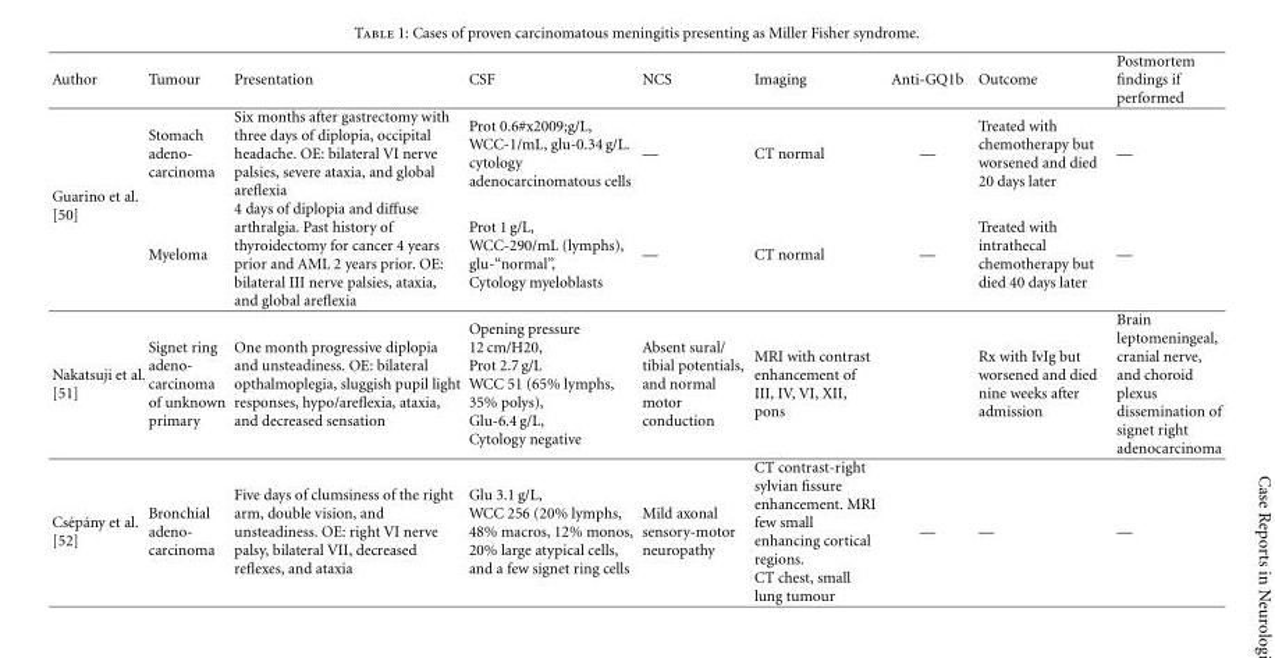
<table><thead><tr><td>Author</td><td>Tumour</td><td>Presentation</td><td>CSF</td><td>NCS</td><td>Imaging</td><td>Anti-GQ1b</td><td>Outcome</td><td>Postmortem findings if performed</td></tr></thead><tbody><tr><td rowspan="2">Guarino et al. [50]</td><td>Stomach adeno- carcinoma</td><td>Six months after gastrectomy with three days of diplopia, occipital headache. OE: bilateral VI nerve palsies, severe ataxia, and global areflexia</td><td>Prot 0.6#x2009;g/L, WCC-1/mL, glu-0.34 g/L. cytology adenocarcinomatous cells</td><td>—</td><td>CT normal</td><td>—</td><td>Treated with chemotherapy but worsened and died 20 days later</td><td>—</td></tr><tr><td>Myeloma</td><td>4 days of diplopia and diffuse arthralgia. Past history of thyroidectomy for cancer 4 years prior and AML 2 years prior. OE: bilateral III nerve palsies, ataxia, and global areflexia</td><td>Prot 1 g/L, WCC-290/mL (lymphs), glu-“normal”, Cytology myeloblasts</td><td>—</td><td>CT normal</td><td>—</td><td>Treated with intrathecal chemotherapy but died 40 days later</td><td>—</td></tr><tr><td>Nakatsuji et al. [51]</td><td>Signet ring adeno- carcinoma of unknown primary</td><td>One month progressive diplopia and unsteadiness. OE: bilateral opthalmoplegia, sluggish pupil light responses, hypo/areflexia, ataxia, and decreased sensation</td><td>Opening pressure 12 cm/H20, Prot 2.7 g/L WCC 51 (65% lymphs, 35% polys), Glu-6.4 g/L, Cytology negative</td><td>Absent sural/ tibial potentials, and normal motor conduction</td><td>MRI with contrast enhancement of III, IV, VI, XII, pons</td><td></td><td>Rx with IvIg but worsened and died nine weeks after admission</td><td>Brain leptomeningeal, cranial nerve, and choroid plexus dissemination of signet right adenocarcinoma</td></tr><tr><td>Cs´ep´any et al. [52]</td><td>Bronchial adeno- carcinoma</td><td>Five days of clumsiness of the right arm, double vision, and unsteadiness. OE: right VI nerve palsy, bilateral VII, decreased reflexes, and ataxia</td><td>Glu 3.1 g/L, WCC 256 (20% lymphs, 48% macros, 12% monos, 20% large atypical cells, and a few signet ring cells</td><td>Mild axonal sensory-motor neuropathy</td><td>CT contrast-right sylvian fissure enhancement. MRI few small enhancing cortical regions. CT chest, small lung tumour</td><td>—</td><td>—</td><td>—</td></tr></tbody></table>